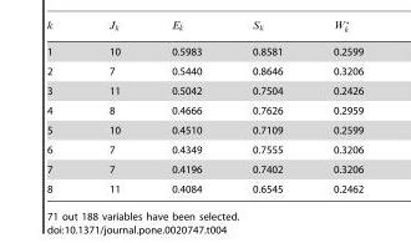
<table><tbody><tr><td>1</td><td>10</td><td>0.5983</td><td>0.8581</td><td>0.2599</td></tr><tr><td>2</td><td>7</td><td>0.5440</td><td>0.8646</td><td>0.3206</td></tr><tr><td>3</td><td>11</td><td>0.5042</td><td>0.7504</td><td>0.2426</td></tr><tr><td>4</td><td>8</td><td>0.4666</td><td>0.7626</td><td>0.2959</td></tr><tr><td>5</td><td>10</td><td>0.4510</td><td>0.7109</td><td>0.2599</td></tr><tr><td>6</td><td>7</td><td>0.4349</td><td>0.7555</td><td>0.3206</td></tr><tr><td>7</td><td>7</td><td>0.4196</td><td>0.7402</td><td>0.3206</td></tr><tr><td>8</td><td>11</td><td>0.4084</td><td>0.6545</td><td>0.2462</td></tr></tbody></table>